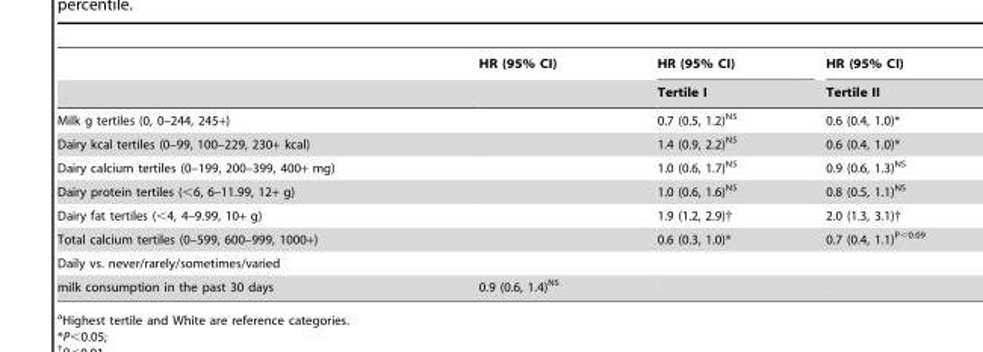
<table><thead><tr><td rowspan="2"></td><td rowspan="2">HR (95% CI)</td><td rowspan="2">HR (95% CI) Tertile I</td><td rowspan="2">HR (95% CI) Tertile II</td></tr><tr></tr></thead><tbody><tr><td>Milk g tertiles (0, 0–244, 245+)</td><td></td><td>0.7 (0.5, 1.2)<sup>NS</sup></td><td>0.6 (0.4, 1.0)*</td></tr><tr><td>Dairy kcal tertiles (0–99, 100–229, 230+ kcal)</td><td></td><td>1.4 (0.9, 2.2)<sup>NS</sup></td><td>0.6 (0.4, 1.0)*</td></tr><tr><td>Dairy calcium tertiles (0–199, 200–399, 400+ mg)</td><td></td><td>1.0 (0.6, 1.7)<sup>NS</sup></td><td>0.9 (0.6, 1.3)<sup>NS</sup></td></tr><tr><td>Dairy protein tertiles (&lt;6, 6–11.99, 12+ g)</td><td></td><td>1.0 (0.6, 1.6)<sup>NS</sup></td><td>0.8 (0.5, 1.1)<sup>NS</sup></td></tr><tr><td>Dairy fat tertiles (&lt;4, 4–9.99, 10+ g)</td><td></td><td>1.9 (1.2, 2.9)†</td><td>2.0 (1.3, 3.1)†</td></tr><tr><td>Total calcium tertiles (0–599, 600–999, 1000+)</td><td></td><td>0.6 (0.3, 1.0)*</td><td>0.7 (0.4, 1.1)<sup>P&lt;0.09</sup></td></tr><tr><td colspan="4">Daily vs. never/rarely/sometimes/varied</td></tr><tr><td>milk consumption in the past 30 days</td><td>0.9 (0.6, 1.4)<sup>NS</sup></td><td></td><td></td></tr></tbody></table>